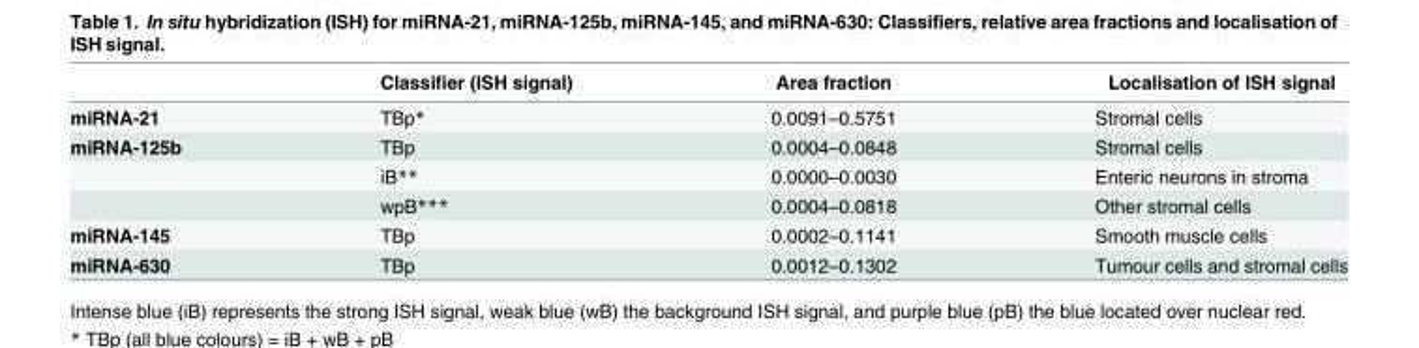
<table><thead><tr><td></td><td>Classifier (ISH signal)</td><td>Area fraction</td><td>Localisation of ISH signal</td></tr></thead><tbody><tr><td>miRNA-21</td><td>TBp*</td><td>0.0091–0.5751</td><td>Stromal cells</td></tr><tr><td rowspan="3">miRNA-125b</td><td>TBp</td><td>0.0004–0.0848</td><td>Stromal cells</td></tr><tr><td>iB**</td><td>0.0000–0.0030</td><td>Enteric neurons in stroma</td></tr><tr><td>wpB***</td><td>0.0004–0.0818</td><td>Other stromal cells</td></tr><tr><td>miRNA-145</td><td>TBp</td><td>0.0002–0.1141</td><td>Smooth muscle cells</td></tr><tr><td>miRNA-630</td><td>TBp</td><td>0.0012–0.1302</td><td>Tumour cells and stromal cells</td></tr></tbody></table>